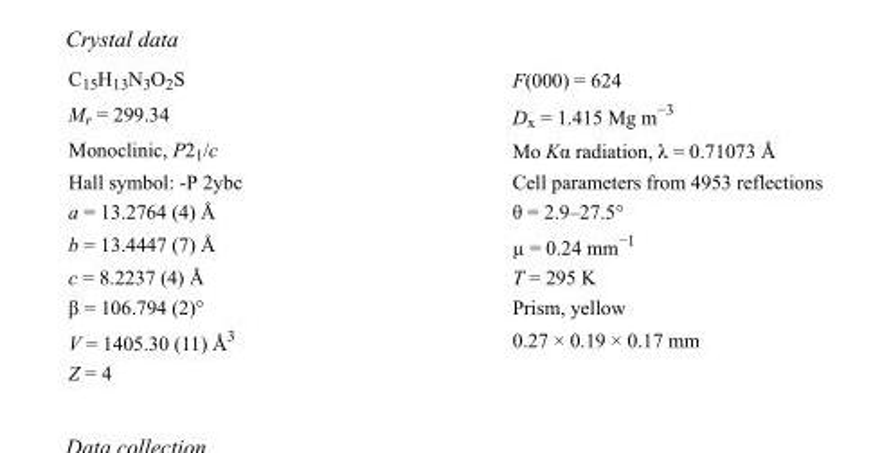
<table><tbody><tr><td>C<sub>15</sub>H<sub>13</sub>N<sub>3</sub>O<sub>2</sub>S</td><td>F(000) = 624</td></tr><tr><td>M<sub>r</sub> = 299.34</td><td>D<sub>x</sub> = 1.415 Mg m<sup>−3</sup></td></tr><tr><td>Monoclinic, P2<sub>1</sub>/c</td><td>Mo Kα radiation, λ = 0.71073 Å</td></tr><tr><td>Hall symbol: -P 2ybc</td><td>Cell parameters from 4953 reflections</td></tr><tr><td>a = 13.2764 (4) Å</td><td>θ = 2.9–27.5°</td></tr><tr><td>b = 13.4447 (7) Å</td><td>µ = 0.24 mm<sup>−1</sup></td></tr><tr><td>c = 8.2237 (4) Å</td><td>T = 295 K</td></tr><tr><td>β = 106.794 (2)°</td><td>Prism, yellow</td></tr><tr><td>V = 1405.30 (11) Å<sup>3</sup></td><td>0.27 × 0.19 × 0.17 mm</td></tr><tr><td>Z = 4</td><td></td></tr></tbody></table>